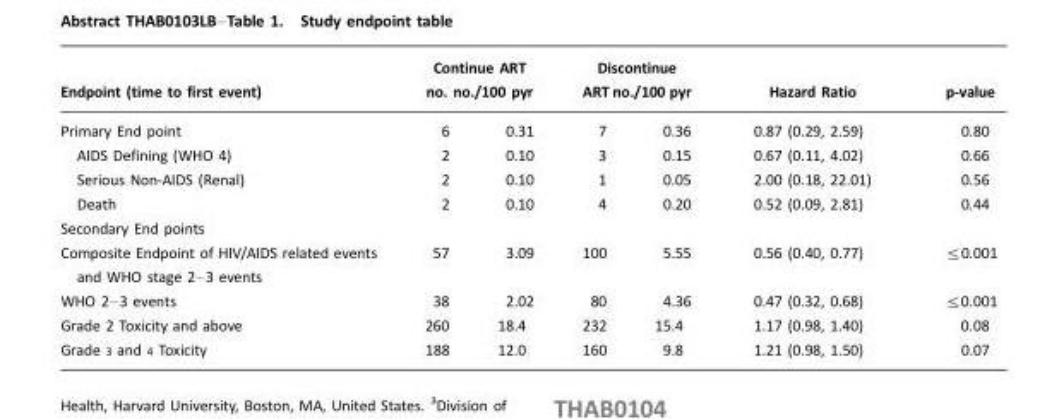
<table><thead><tr><td rowspan="2">Endpoint (time to first event) Primary End point</td><td colspan="2">Continue ART no. no./100 pyr</td><td colspan="2">Discontinue ART no./100 pyr</td><td rowspan="2">Hazard Ratio 0.87 (0.29, 2.59)</td><td rowspan="2">p-value 0.80</td></tr><tr><td>6</td><td>0.31</td><td>7</td><td>0.36</td></tr></thead><tbody><tr><td>AIDS Defining (WHO 4)</td><td>2</td><td>0.10</td><td>3</td><td>0.15</td><td>0.67 (0.11, 4.02)</td><td>0.66</td></tr><tr><td>Serious Non-AIDS (Renal)</td><td>2</td><td>0.10</td><td>1</td><td>0.05</td><td>2.00 (0.18, 22.01)</td><td>0.56</td></tr><tr><td>Death</td><td>2</td><td>0.10</td><td>4</td><td>0.20</td><td>0.52 (0.09, 2.81)</td><td>0.44</td></tr><tr><td colspan="7">Secondary End points</td></tr><tr><td>Composite Endpoint of HIV/AIDS related events and WHO stage 2–3 events</td><td>57</td><td>3.09</td><td>100</td><td>5.55</td><td>0.56 (0.40, 0.77)</td><td>≤0.001</td></tr><tr><td>WHO 2–3 events</td><td>38</td><td>2.02</td><td>80</td><td>4.36</td><td>0.47 (0.32, 0.68)</td><td>≤0.001</td></tr><tr><td>Grade 2 Toxicity and above</td><td>260</td><td>18.4</td><td>232</td><td>15.4</td><td>1.17 (0.98, 1.40)</td><td>0.08</td></tr><tr><td>Grade 3 and 4 Toxicity</td><td>188</td><td>12.0</td><td>160</td><td>9.8</td><td>1.21 (0.98, 1.50)</td><td>0.07</td></tr></tbody></table>